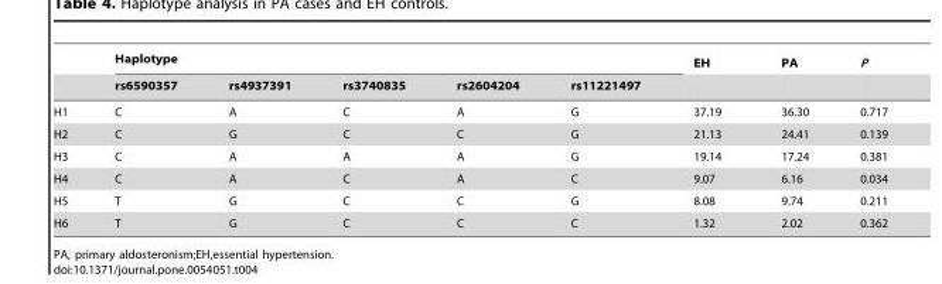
<table><thead><tr><td rowspan="2"></td><td colspan="5">Haplotype</td><td rowspan="2">EH</td><td rowspan="2">PA</td><td rowspan="2">P</td></tr><tr><td>rs6590357</td><td>rs4937391</td><td>rs3740835</td><td>rs2604204</td><td>rs11221497</td></tr></thead><tbody><tr><td>H1</td><td>C</td><td>A</td><td>C</td><td>A</td><td>G</td><td>37.19</td><td>36.30</td><td>0.717</td></tr><tr><td>H2</td><td>C</td><td>G</td><td>C</td><td>C</td><td>G</td><td>21.13</td><td>24.41</td><td>0.139</td></tr><tr><td>H3</td><td>C</td><td>A</td><td>A</td><td>A</td><td>G</td><td>19.14</td><td>17.24</td><td>0.381</td></tr><tr><td>H4</td><td>C</td><td>A</td><td>C</td><td>A</td><td>C</td><td>9.07</td><td>6.16</td><td>0.034</td></tr><tr><td>H5</td><td>T</td><td>G</td><td>C</td><td>C</td><td>G</td><td>8.08</td><td>9.74</td><td>0.211</td></tr><tr><td>H6</td><td>T</td><td>G</td><td>C</td><td>C</td><td>C</td><td>1.32</td><td>2.02</td><td>0.362</td></tr></tbody></table>